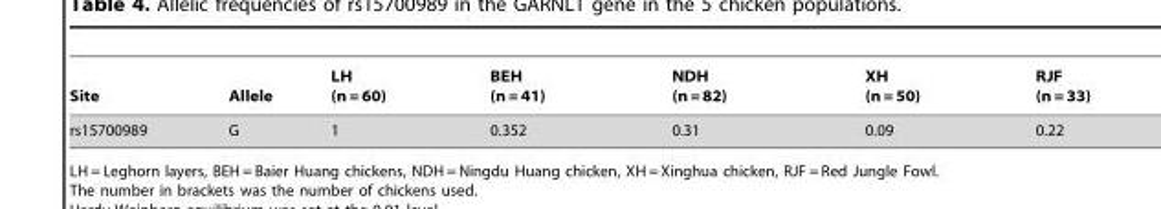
<table><thead><tr><td>Site</td><td>Allele</td><td>LH (n = 60)</td><td>BEH (n = 41)</td><td>NDH (n = 82)</td><td>XH (n = 50)</td><td>RJF (n = 33)</td></tr></thead><tbody><tr><td>rs15700989</td><td>G</td><td>1</td><td>0.352</td><td>0.31</td><td>0.09</td><td>0.22</td></tr></tbody></table>